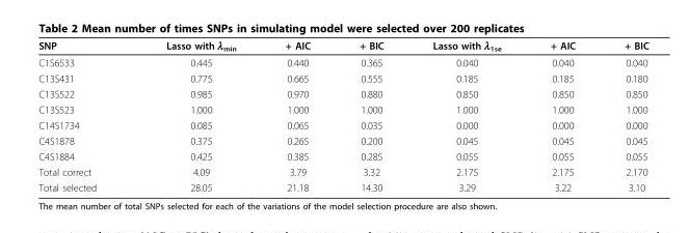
<table><thead><tr><td>SNP</td><td>Lasso with λ<sub>min</sub></td><td>+ AIC</td><td>+ BIC</td><td>Lasso with λ<sub>1se</sub></td><td>+ AIC</td><td>+ BIC</td></tr></thead><tbody><tr><td>C1S6533</td><td>0.445</td><td>0.440</td><td>0.365</td><td>0.040</td><td>0.040</td><td>0.040</td></tr><tr><td>C13S431</td><td>0.775</td><td>0.665</td><td>0.555</td><td>0.185</td><td>0.185</td><td>0.180</td></tr><tr><td>C13S522</td><td>0.985</td><td>0.970</td><td>0.880</td><td>0.850</td><td>0.850</td><td>0.850</td></tr><tr><td>C13S523</td><td>1.000</td><td>1.000</td><td>1.000</td><td>1.000</td><td>1.000</td><td>1.000</td></tr><tr><td>C14S1734</td><td>0.085</td><td>0.065</td><td>0.035</td><td>0.000</td><td>0.000</td><td>0.000</td></tr><tr><td>C4S1878</td><td>0.375</td><td>0.265</td><td>0.200</td><td>0.045</td><td>0.045</td><td>0.045</td></tr><tr><td>C4S1884</td><td>0.425</td><td>0.385</td><td>0.285</td><td>0.055</td><td>0.055</td><td>0.055</td></tr><tr><td>Total correct</td><td>4.09</td><td>3.79</td><td>3.32</td><td>2.175</td><td>2.175</td><td>2.170</td></tr><tr><td>Total selected</td><td>28.05</td><td>21.18</td><td>14.30</td><td>3.29</td><td>3.22</td><td>3.10</td></tr></tbody></table>